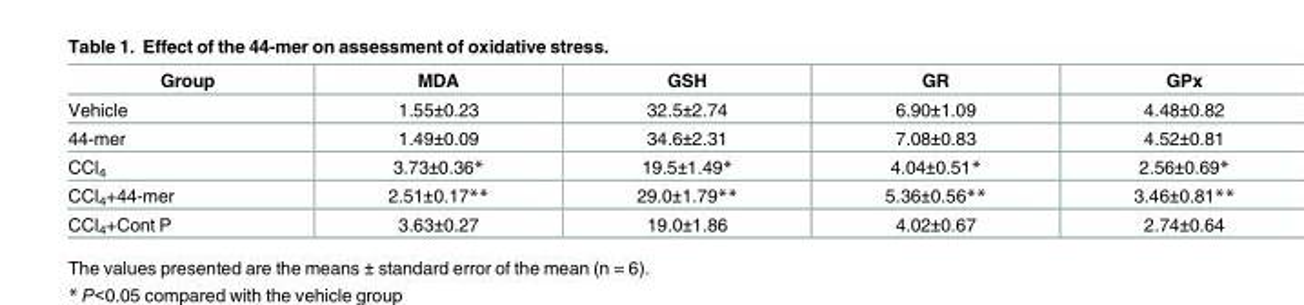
<table><thead><tr><td>Group</td><td>MDA</td><td>GSH</td><td>GR</td><td>GPx</td></tr></thead><tbody><tr><td>Vehicle</td><td>1.55±0.23</td><td>32.5±2.74</td><td>6.90±1.09</td><td>4.48±0.82</td></tr><tr><td>44-mer</td><td>1.49±0.09</td><td>34.6±2.31</td><td>7.08±0.83</td><td>4.52±0.81</td></tr><tr><td>CCl<sub>4</sub></td><td>3.73±0.36*</td><td>19.5±1.49*</td><td>4.04±0.51*</td><td>2.56±0.69*</td></tr><tr><td>CCl<sub>4</sub>+44-mer</td><td>2.51±0.17**</td><td>29.0±1.79**</td><td>5.36±0.56**</td><td>3.46±0.81**</td></tr><tr><td>CCl<sub>4</sub>+Cont P</td><td>3.63±0.27</td><td>19.0±1.86</td><td>4.02±0.67</td><td>2.74±0.64</td></tr></tbody></table>